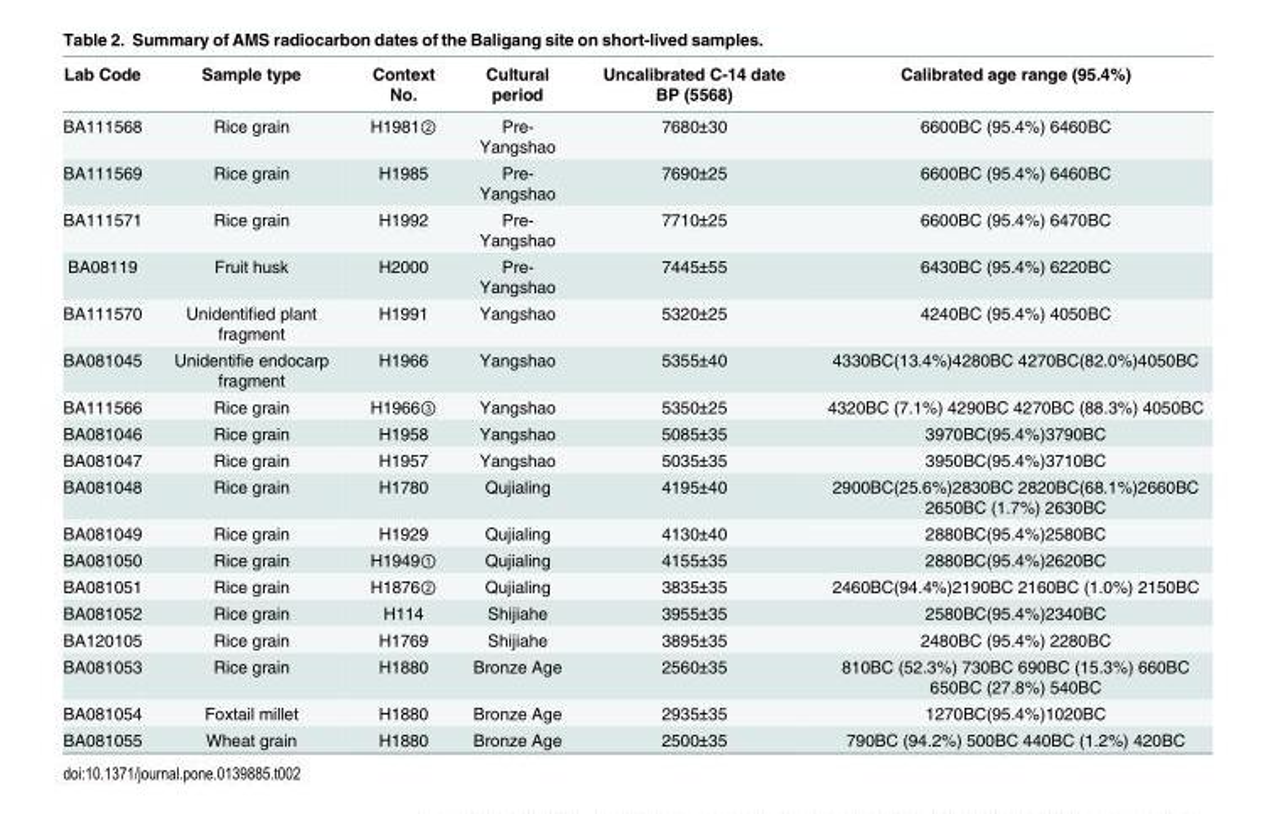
<table><thead><tr><td>Lab Code</td><td>Sample type</td><td>Context No.</td><td>Cultural period</td><td>Uncalibrated C-14 date BP (5568)</td><td>Calibrated age range (95.4%)</td></tr></thead><tbody><tr><td>BA111568</td><td>Rice grain</td><td>H1981②</td><td>Pre- Yangshao</td><td>7680±30</td><td>6600BC (95.4%) 6460BC</td></tr><tr><td>BA111569</td><td>Rice grain</td><td>H1985</td><td>Pre- Yangshao</td><td>7690±25</td><td>6600BC (95.4%) 6460BC</td></tr><tr><td>BA111571</td><td>Rice grain</td><td>H1992</td><td>Pre- Yangshao</td><td>7710±25</td><td>6600BC (95.4%) 6470BC</td></tr><tr><td>BA08119</td><td>Fruit husk</td><td>H2000</td><td>Pre- Yangshao</td><td>7445±55</td><td>6430BC (95.4%) 6220BC</td></tr><tr><td>BA111570</td><td>Unidentified plant fragment</td><td>H1991</td><td>Yangshao</td><td>5320±25</td><td>4240BC (95.4%) 4050BC</td></tr><tr><td>BA081045</td><td>Unidentifie endocarp fragment</td><td>H1966</td><td>Yangshao</td><td>5355±40</td><td>4330BC(13.4%)4280BC 4270BC(82.0%)4050BC</td></tr><tr><td>BA111566</td><td>Rice grain</td><td>H1966③</td><td>Yangshao</td><td>5350±25</td><td>4320BC (7.1%) 4290BC 4270BC (88.3%) 4050BC</td></tr><tr><td>BA081046</td><td>Rice grain</td><td>H1958</td><td>Yangshao</td><td>5085±35</td><td>3970BC(95.4%)3790BC</td></tr><tr><td>BA081047</td><td>Rice grain</td><td>H1957</td><td>Yangshao</td><td>5035±35</td><td>3950BC(95.4%)3710BC</td></tr><tr><td>BA081048</td><td>Rice grain</td><td>H1780</td><td>Qujialing</td><td>4195±40</td><td>2900BC(25.6%)2830BC 2820BC(68.1%)2660BC 2650BC (1.7%) 2630BC</td></tr><tr><td>BA081049</td><td>Rice grain</td><td>H1929</td><td>Qujialing</td><td>4130±40</td><td>2880BC(95.4%)2580BC</td></tr><tr><td>BA081050</td><td>Rice grain</td><td>H1949①</td><td>Qujialing</td><td>4155±35</td><td>2880BC(95.4%)2620BC</td></tr><tr><td>BA081051</td><td>Rice grain</td><td>H1876②</td><td>Qujialing</td><td>3835±35</td><td>2460BC(94.4%)2190BC 2160BC (1.0%) 2150BC</td></tr><tr><td>BA081052</td><td>Rice grain</td><td>H114</td><td>Shijiahe</td><td>3955±35</td><td>2580BC(95.4%)2340BC</td></tr><tr><td>BA120105</td><td>Rice grain</td><td>H1769</td><td>Shijiahe</td><td>3895±35</td><td>2480BC (95.4%) 2280BC</td></tr><tr><td>BA081053</td><td>Rice grain</td><td>H1880</td><td>Bronze Age</td><td>2560±35</td><td>810BC (52.3%) 730BC 690BC (15.3%) 660BC 650BC (27.8%) 540BC</td></tr><tr><td>BA081054</td><td>Foxtail millet</td><td>H1880</td><td>Bronze Age</td><td>2935±35</td><td>1270BC(95.4%)1020BC</td></tr><tr><td>BA081055</td><td>Wheat grain</td><td>H1880</td><td>Bronze Age</td><td>2500±35</td><td>790BC (94.2%) 500BC 440BC (1.2%) 420BC</td></tr></tbody></table>